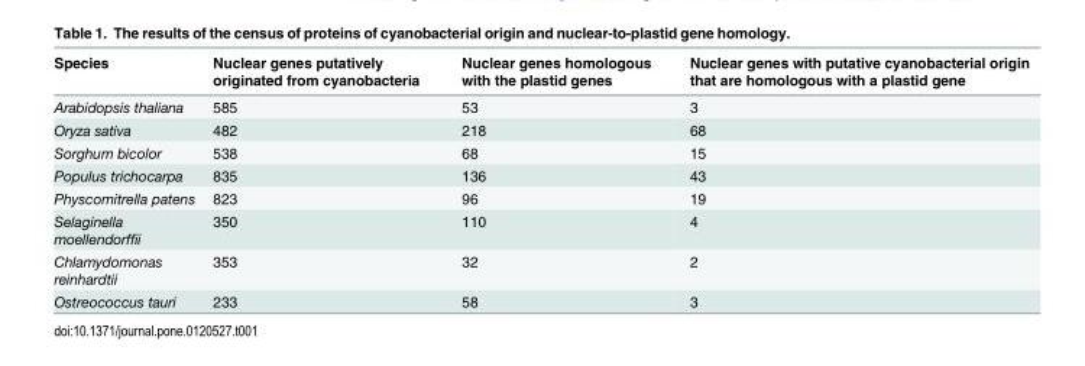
<table><thead><tr><td>Species</td><td>Nuclear genes putatively originated from cyanobacteria</td><td>Nuclear genes homologous with the plastid genes</td><td>Nuclear genes with putative cyanobacterial origin that are homologous with a plastid gene</td></tr></thead><tbody><tr><td>Arabidopsis thaliana</td><td>585</td><td>53</td><td>3</td></tr><tr><td>Oryza sativa</td><td>482</td><td>218</td><td>68</td></tr><tr><td>Sorghum bicolor</td><td>538</td><td>68</td><td>15</td></tr><tr><td>Populus trichocarpa</td><td>835</td><td>136</td><td>43</td></tr><tr><td>Physcomitrella patens</td><td>823</td><td>96</td><td>19</td></tr><tr><td>Selaginella moellendorffii</td><td>350</td><td>110</td><td>4</td></tr><tr><td>Chlamydomonas reinhardtii</td><td>353</td><td>32</td><td>2</td></tr><tr><td>Ostreococcus tauri</td><td>233</td><td>58</td><td>3</td></tr></tbody></table>